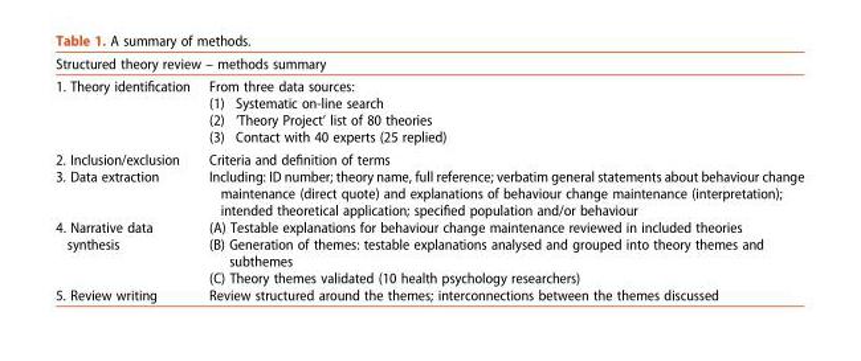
<table><thead><tr><td colspan="2">Structured theory review – methods summary</td></tr><tr><td>1. Theory identification</td><td>From three data sources:</td></tr></thead><tbody><tr><td></td><td>(1) Systematic on-line search (2) ‘Theory Project’ list of 80 theories (3) Contact with 40 experts (25 replied)</td></tr><tr><td>2. Inclusion/exclusion</td><td>Criteria and definition of terms</td></tr><tr><td>3. Data extraction</td><td>Including: ID number; theory name, full reference; verbatim general statements about behaviour change maintenance (direct quote) and explanations of behaviour change maintenance (interpretation); intended theoretical application; specified population and/or behaviour</td></tr><tr><td>4. Narrative data synthesis</td><td>(A) Testable explanations for behaviour change maintenance reviewed in included theories (B) Generation of themes: testable explanations analysed and grouped into theory themes and subthemes (C) Theory themes validated (10 health psychology researchers)</td></tr><tr><td>5. Review writing</td><td>Review structured around the themes; interconnections between the themes discussed</td></tr></tbody></table>